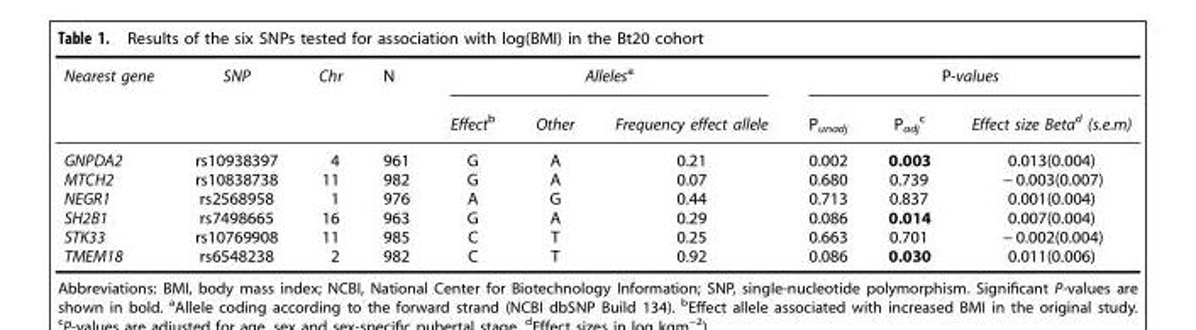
<table><thead><tr><td rowspan="2">Nearest gene</td><td rowspan="2">SNP</td><td rowspan="2">Chr</td><td rowspan="2">N</td><td colspan="3">Alleles<sup>a</sup></td><td colspan="3">P-values</td></tr><tr><td>Effect<sup>b</sup></td><td>Other</td><td>Frequency effect allele</td><td>P<sub>unadj</sub></td><td>P<sub>adj</sub> <sup>c</sup></td><td>Effect size Βetad (s.e.m)</td></tr></thead><tbody><tr><td>GNPDA2</td><td>rs10938397</td><td>4</td><td>961</td><td>G</td><td>A</td><td>0.21</td><td>0.002</td><td>0.003</td><td>0.013(0.004)</td></tr><tr><td>MTCH2</td><td>rs10838738</td><td>11</td><td>982</td><td>G</td><td>A</td><td>0.07</td><td>0.680</td><td>0.739</td><td>− 0.003(0.007)</td></tr><tr><td>NEGR1</td><td>rs2568958</td><td>1</td><td>976</td><td>A</td><td>G</td><td>0.44</td><td>0.713</td><td>0.837</td><td>0.001(0.004)</td></tr><tr><td>SH2B1</td><td>rs7498665</td><td>16</td><td>963</td><td>G</td><td>A</td><td>0.29</td><td>0.086</td><td>0.014</td><td>0.007(0.004)</td></tr><tr><td>STK33</td><td>rs10769908</td><td>11</td><td>985</td><td>C</td><td>T</td><td>0.25</td><td>0.663</td><td>0.701</td><td>− 0.002(0.004)</td></tr><tr><td>TMEM18</td><td>rs6548238</td><td>2</td><td>982</td><td>C</td><td>T</td><td>0.92</td><td>0.086</td><td>0.030</td><td>0.011(0.006)</td></tr></tbody></table>